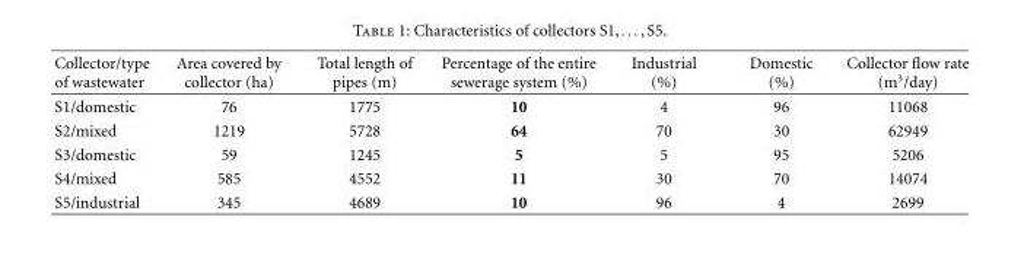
<table><thead><tr><td>Collector/type of wastewater</td><td>Area covered by collector (ha)</td><td>Total length of pipes (m)</td><td>Percentage of the entire sewerage system (%)</td><td>Industrial (%)</td><td>Domestic (%)</td><td>Collector flow rate (m<sup>3</sup>/day)</td></tr></thead><tbody><tr><td>S1/domestic</td><td>76</td><td>1775</td><td>10</td><td>4</td><td>96</td><td>11068</td></tr><tr><td>S2/mixed</td><td>1219</td><td>5728</td><td>64</td><td>70</td><td>30</td><td>62949</td></tr><tr><td>S3/domestic</td><td>59</td><td>1245</td><td>5</td><td>5</td><td>95</td><td>5206</td></tr><tr><td>S4/mixed</td><td>585</td><td>4552</td><td>11</td><td>30</td><td>70</td><td>14074</td></tr><tr><td>S5/industrial</td><td>345</td><td>4689</td><td>10</td><td>96</td><td>4</td><td>2699</td></tr></tbody></table>